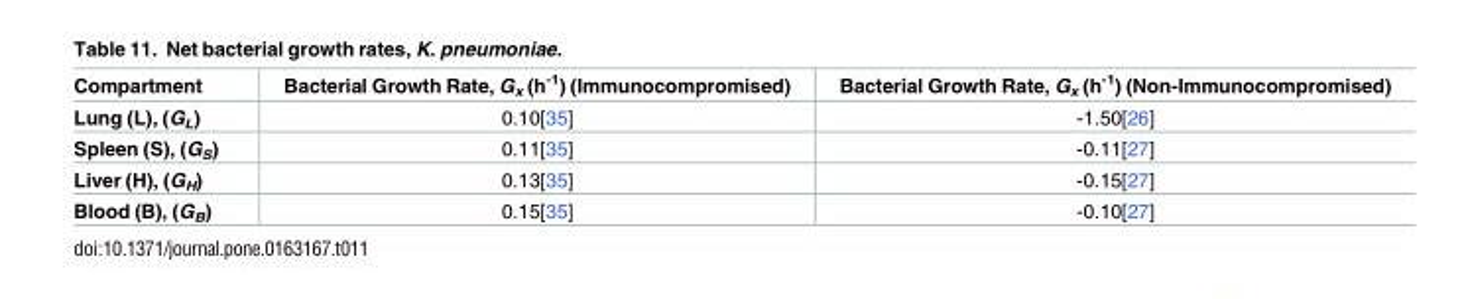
<table><thead><tr><td>Compartment</td><td>Bacterial Growth Rate, G<sub>x</sub> (h<sup>-1</sup>) (Immunocompromised)</td><td>Bacterial Growth Rate, G<sub>x</sub> (h<sup>-1</sup>) (Non-Immunocompromised)</td></tr></thead><tbody><tr><td>Lung (L), (G<sub>L</sub>)</td><td>0.10[35]</td><td>-1.50[26]</td></tr><tr><td>Spleen (S), (G<sub>S</sub>)</td><td>0.11[35]</td><td>-0.11[27]</td></tr><tr><td>Liver (H), (G<sub>H</sub>)</td><td>0.13[35]</td><td>-0.15[27]</td></tr><tr><td>Blood (B), (G<sub>B</sub>)</td><td>0.15[35]</td><td>-0.10[27]</td></tr></tbody></table>